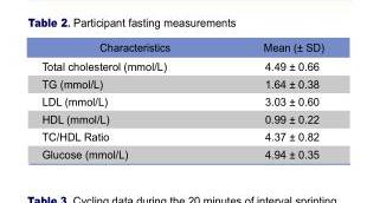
<table><thead><tr><td>Characteristics</td><td>Mean (± SD)</td></tr></thead><tbody><tr><td>Total cholesterol (mmol/L)</td><td>4.49 ± 0.66</td></tr><tr><td>TG (mmol/L)</td><td>1.64 ± 0.38</td></tr><tr><td>LDL (mmol/L)</td><td>3.03 ± 0.60</td></tr><tr><td>HDL (mmol/L)</td><td>0.99 ± 0.22</td></tr><tr><td>TC/HDL Ratio</td><td>4.37 ± 0.82</td></tr><tr><td>Glucose (mmol/L)</td><td>4.94 ± 0.35</td></tr></tbody></table>